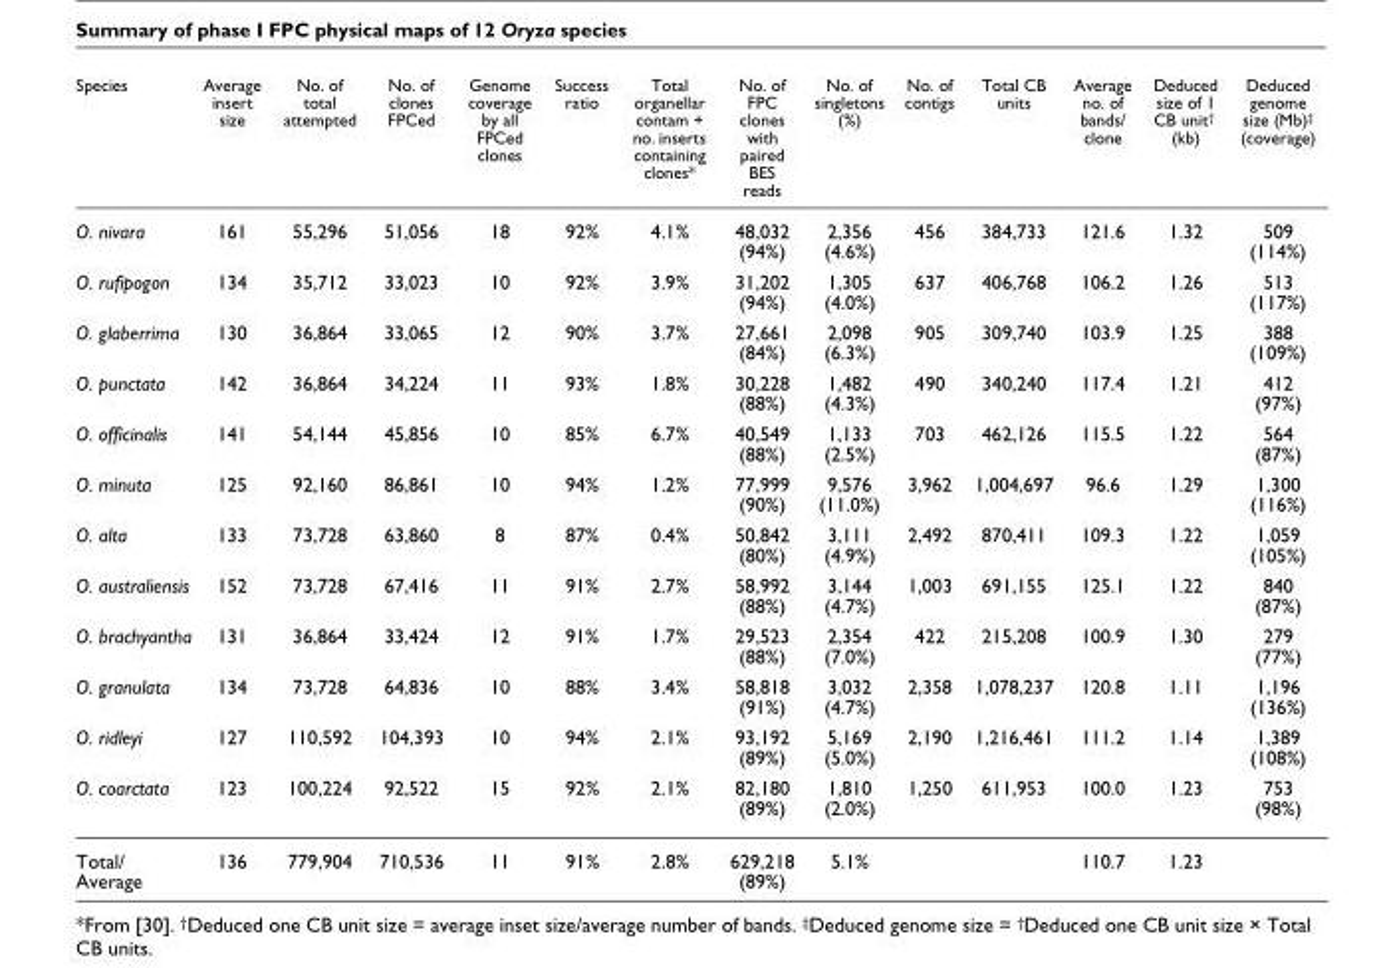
<table><thead><tr><td>Species</td><td>Average insert size</td><td>No. of total attempted</td><td>No. of clones FPCed</td><td>Genome coverage by all FPCed clones</td><td>Success ratio</td><td>Total organellar contam + no. inserts containing clones*</td><td>No. of FPC clones with paired BES reads</td><td>No. of singletons (%)</td><td>No. of contigs</td><td>Total CB units</td><td>Average no. of bands/ clone</td><td>Deduced size of 1 CB unit<sup>†</sup> (kb)</td><td>Deduced genome size (Mb)<sup>‡</sup> (coverage)</td></tr></thead><tbody><tr><td>O. nivara</td><td>161</td><td>55,296</td><td>51,056</td><td>18</td><td>92%</td><td>4.1%</td><td>48,032 (94%)</td><td>2,356 (4.6%)</td><td>456</td><td>384,733</td><td>121.6</td><td>1.32</td><td>509 (114%)</td></tr><tr><td>O. rufipogon</td><td>134</td><td>35,712</td><td>33,023</td><td>10</td><td>92%</td><td>3.9%</td><td>31,202 (94%)</td><td>1,305 (4.0%)</td><td>637</td><td>406,768</td><td>106.2</td><td>1.26</td><td>513 (117%)</td></tr><tr><td>O. glaberrima</td><td>130</td><td>36,864</td><td>33,065</td><td>12</td><td>90%</td><td>3.7%</td><td>27,661 (84%)</td><td>2,098 (6.3%)</td><td>905</td><td>309,740</td><td>103.9</td><td>1.25</td><td>388 (109%)</td></tr><tr><td>O. punctata</td><td>142</td><td>36,864</td><td>34,224</td><td>11</td><td>93%</td><td>1.8%</td><td>30,228 (88%)</td><td>1,482 (4.3%)</td><td>490</td><td>340,240</td><td>117.4</td><td>1.21</td><td>412 (97%)</td></tr><tr><td>O. officinalis</td><td>141</td><td>54,144</td><td>45,856</td><td>10</td><td>85%</td><td>6.7%</td><td>40,549 (88%)</td><td>1,133 (2.5%)</td><td>703</td><td>462,126</td><td>115.5</td><td>1.22</td><td>564 (87%)</td></tr><tr><td>O. minuta</td><td>125</td><td>92,160</td><td>86,861</td><td>10</td><td>94%</td><td>1.2%</td><td>77,999 (90%)</td><td>9,576 (11.0%)</td><td>3,962</td><td>1,004,697</td><td>96.6</td><td>1.29</td><td>1,300 (116%)</td></tr><tr><td>O. alta</td><td>133</td><td>73,728</td><td>63,860</td><td>8</td><td>87%</td><td>0.4%</td><td>50,842 (80%)</td><td>3,111 (4.9%)</td><td>2,492</td><td>870,411</td><td>109.3</td><td>1.22</td><td>1,059 (105%)</td></tr><tr><td>O. australiensis</td><td>152</td><td>73,728</td><td>67,416</td><td>11</td><td>91%</td><td>2.7%</td><td>58,992 (88%)</td><td>3,144 (4.7%)</td><td>1,003</td><td>691,155</td><td>125.1</td><td>1.22</td><td>840 (87%)</td></tr><tr><td>O. brachyantha</td><td>131</td><td>36,864</td><td>33,424</td><td>12</td><td>91%</td><td>1.7%</td><td>29,523 (88%)</td><td>2,354 (7.0%)</td><td>422</td><td>215,208</td><td>100.9</td><td>1.30</td><td>279 (77%)</td></tr><tr><td>O. granulata</td><td>134</td><td>73,728</td><td>64,836</td><td>10</td><td>88%</td><td>3.4%</td><td>58,818 (91%)</td><td>3,032 (4.7%)</td><td>2,358</td><td>1,078,237</td><td>120.8</td><td>1.11</td><td>1,196 (136%)</td></tr><tr><td>O. ridleyi</td><td>127</td><td>110,592</td><td>104,393</td><td>10</td><td>94%</td><td>2.1%</td><td>93,192 (89%)</td><td>5,169 (5.0%)</td><td>2,190</td><td>1,216,461</td><td>111.2</td><td>1.14</td><td>1,389 (108%)</td></tr><tr><td>O. coarctata</td><td>123</td><td>100,224</td><td>92,522</td><td>15</td><td>92%</td><td>2.1%</td><td>82,180 (89%)</td><td>1,810 (2.0%)</td><td>1,250</td><td>611,953</td><td>100.0</td><td>1.23</td><td>753 (98%)</td></tr><tr><td>Total/ Average</td><td>136</td><td>779,904</td><td>710,536</td><td>11</td><td>91%</td><td>2.8%</td><td>629,218 (89%)</td><td>5.1%</td><td></td><td></td><td>110.7</td><td>1.23</td><td></td></tr></tbody></table>